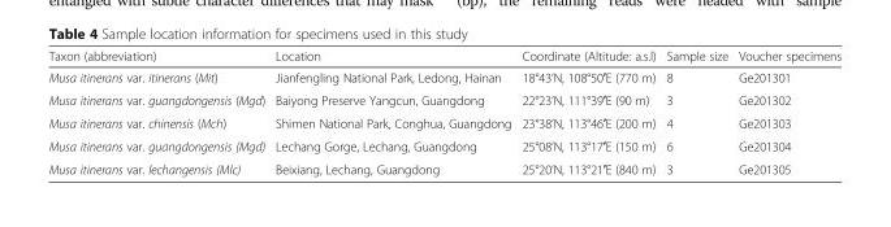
<table><thead><tr><td>Taxon (abbreviation)</td><td>Location</td><td>Coordinate (Altitude: a.s.l)</td><td>Sample size</td><td>Voucher specimens</td></tr></thead><tbody><tr><td>Musa itinerans var. itinerans (Mit)</td><td>Jianfengling National Park, Ledong, Hainan</td><td>18°43’N, 108°50′E (770 m)</td><td>8</td><td>Ge201301</td></tr><tr><td>Musa itinerans var. guangdongensis (Mgd)</td><td>Baiyong Preserve Yangcun, Guangdong</td><td>22°23’N, 111°39′E (90 m)</td><td>3</td><td>Ge201302</td></tr><tr><td>Musa itinerans var. chinensis (Mch)</td><td>Shimen National Park, Conghua, Guangdong</td><td>23°38’N, 113°46′E (200 m)</td><td>4</td><td>Ge201303</td></tr><tr><td>Musa itinerans var. guangdongensis (Mgd)</td><td>Lechang Gorge, Lechang, Guangdong</td><td>25°08’N, 113°17′E (150 m)</td><td>6</td><td>Ge201304</td></tr><tr><td>Musa itinerans var. lechangensis (Mlc)</td><td>Beixiang, Lechang, Guangdong</td><td>25°20’N, 113°21′E (840 m)</td><td>3</td><td>Ge201305</td></tr></tbody></table>